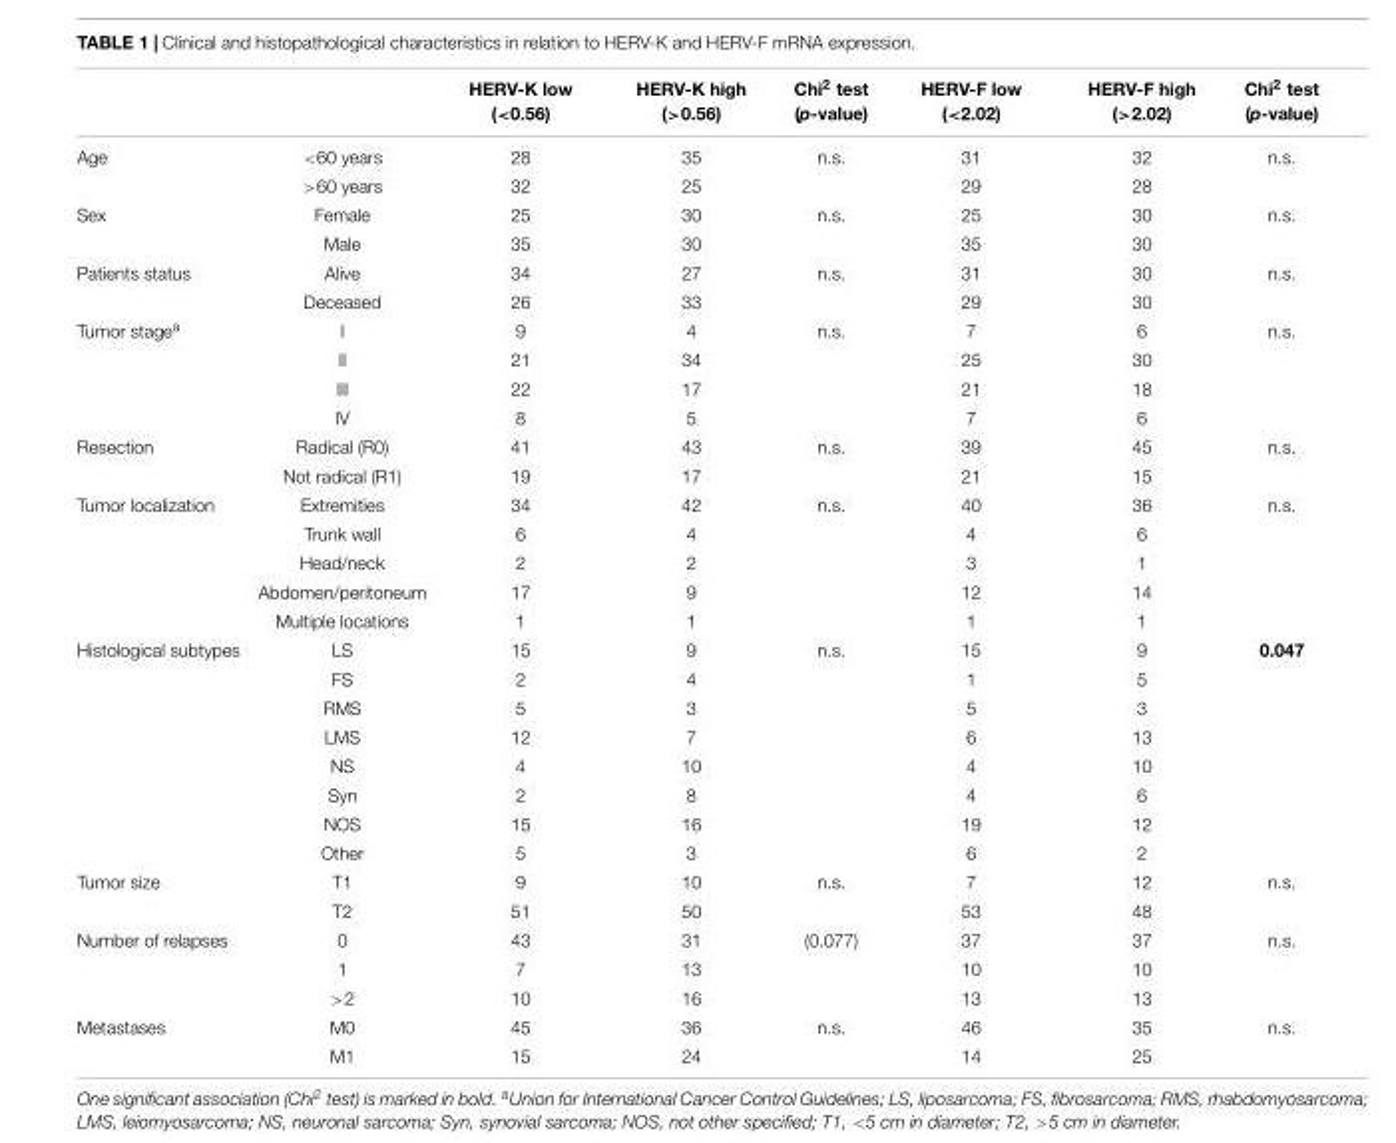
<table><thead><tr><td></td><td></td><td>HERV-K low (&lt;0.56)</td><td>HERV-K high (&gt;0.56)</td><td>Chi<sup>2</sup> test (p-value)</td><td>HERV-F low (&lt;2.02)</td><td>HERV-F high (&gt;2.02)</td><td>Chi<sup>2</sup> test (p-value)</td></tr></thead><tbody><tr><td rowspan="2">Age</td><td>&lt;60 years</td><td>28</td><td>35</td><td>n.s.</td><td>31</td><td>32</td><td>n.s.</td></tr><tr><td>&gt;60 years</td><td>32</td><td>25</td><td></td><td>29</td><td>28</td><td></td></tr><tr><td rowspan="2">Sex</td><td>Female</td><td>25</td><td>30</td><td>n.s.</td><td>25</td><td>30</td><td>n.s.</td></tr><tr><td>Male</td><td>35</td><td>30</td><td></td><td>35</td><td>30</td><td></td></tr><tr><td rowspan="2">Patients status</td><td>Alive</td><td>34</td><td>27</td><td>n.s.</td><td>31</td><td>30</td><td>n.s.</td></tr><tr><td>Deceased</td><td>26</td><td>33</td><td></td><td>29</td><td>30</td><td></td></tr><tr><td rowspan="4">Tumor stage<sup>a</sup></td><td>I</td><td>9</td><td>4</td><td>n.s.</td><td>7</td><td>6</td><td>n.s.</td></tr><tr><td>II</td><td>21</td><td>34</td><td></td><td>25</td><td>30</td><td></td></tr><tr><td>III</td><td>22</td><td>17</td><td></td><td>21</td><td>18</td><td></td></tr><tr><td>IV</td><td>8</td><td>5</td><td></td><td>7</td><td>6</td><td></td></tr><tr><td rowspan="2">Resection</td><td>Radical (R0)</td><td>41</td><td>43</td><td>n.s.</td><td>39</td><td>45</td><td>n.s.</td></tr><tr><td>Not radical (R1)</td><td>19</td><td>17</td><td></td><td>21</td><td>15</td><td></td></tr><tr><td rowspan="5">Tumor localization</td><td>Extremities</td><td>34</td><td>42</td><td>n.s.</td><td>40</td><td>36</td><td>n.s.</td></tr><tr><td>Trunk wall</td><td>6</td><td>4</td><td></td><td>4</td><td>6</td><td></td></tr><tr><td>Head/neck</td><td>2</td><td>2</td><td></td><td>3</td><td>1</td><td></td></tr><tr><td>Abdomen/peritoneum</td><td>17</td><td>9</td><td></td><td>12</td><td>14</td><td></td></tr><tr><td>Multiple locations</td><td>1</td><td>1</td><td></td><td>1</td><td>1</td><td></td></tr><tr><td rowspan="8">Histological subtypes</td><td>LS</td><td>15</td><td>9</td><td>n.s.</td><td>15</td><td>9</td><td>0.047</td></tr><tr><td>FS</td><td>2</td><td>4</td><td></td><td>1</td><td>5</td><td></td></tr><tr><td>RMS</td><td>5</td><td>3</td><td></td><td>5</td><td>3</td><td></td></tr><tr><td>LMS</td><td>12</td><td>7</td><td></td><td>6</td><td>13</td><td></td></tr><tr><td>NS</td><td>4</td><td>10</td><td></td><td>4</td><td>10</td><td></td></tr><tr><td>Syn</td><td>2</td><td>8</td><td></td><td>4</td><td>6</td><td></td></tr><tr><td>NOS</td><td>15</td><td>16</td><td></td><td>19</td><td>12</td><td></td></tr><tr><td>Other</td><td>5</td><td>3</td><td></td><td>6</td><td>2</td><td></td></tr><tr><td rowspan="2">Tumor size</td><td>T1</td><td>9</td><td>10</td><td>n.s.</td><td>7</td><td>12</td><td>n.s.</td></tr><tr><td>T2</td><td>51</td><td>50</td><td></td><td>53</td><td>48</td><td></td></tr><tr><td rowspan="3">Number of relapses</td><td>0</td><td>43</td><td>31</td><td>(0.077)</td><td>37</td><td>37</td><td>n.s.</td></tr><tr><td>1</td><td>7</td><td>13</td><td></td><td>10</td><td>10</td><td></td></tr><tr><td>&gt;2</td><td>10</td><td>16</td><td></td><td>13</td><td>13</td><td></td></tr><tr><td rowspan="2">Metastases</td><td>M0</td><td>45</td><td>36</td><td>n.s.</td><td>46</td><td>35</td><td>n.s.</td></tr><tr><td>M1</td><td>15</td><td>24</td><td></td><td>14</td><td>25</td><td></td></tr></tbody></table>